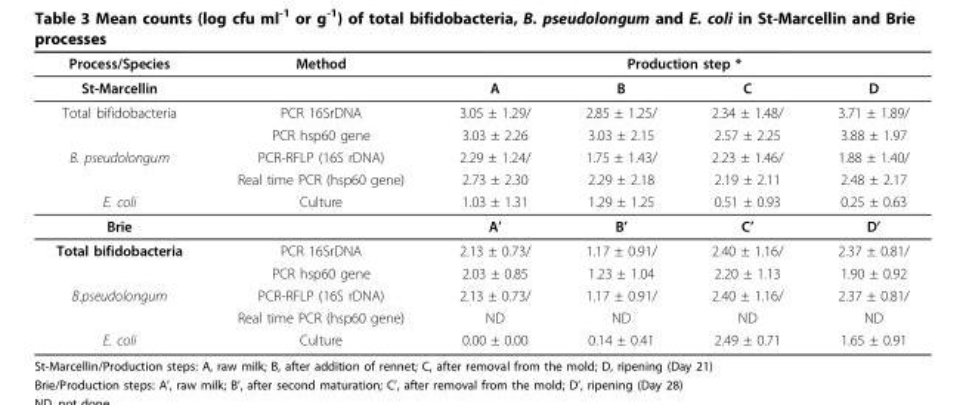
<table><thead><tr><td rowspan="2">Process/Species St-Marcellin</td><td rowspan="2">Method</td><td colspan="4">Production step *</td></tr><tr><td>A</td><td>B</td><td>C</td><td>D</td></tr></thead><tbody><tr><td rowspan="2">Total bifidobacteria</td><td>PCR 16SrDNA</td><td>3.05 ± 1.29/</td><td>2.85 ± 1.25/</td><td>2.34 ± 1.48/</td><td>3.71 ± 1.89/</td></tr><tr><td>PCR hsp60 gene</td><td>3.03 ± 2.26</td><td>3.03 ± 2.15</td><td>2.57 ± 2.25</td><td>3.88 ± 1.97</td></tr><tr><td rowspan="2">B. pseudolongum</td><td>PCR-RFLP (16S rDNA)</td><td>2.29 ± 1.24/</td><td>1.75 ± 1.43/</td><td>2.23 ± 1.46/</td><td>1.88 ± 1.40/</td></tr><tr><td>Real time PCR (hsp60 gene)</td><td>2.73 ± 2.30</td><td>2.29 ± 2.18</td><td>2.19 ± 2.11</td><td>2.48 ± 2.17</td></tr><tr><td>E. coli</td><td>Culture</td><td>1.03 ± 1.31</td><td>1.29 ± 1.25</td><td>0.51 ± 0.93</td><td>0.25 ± 0.63</td></tr><tr><td>Brie</td><td></td><td>A’</td><td>B’</td><td>C’</td><td>D’</td></tr><tr><td rowspan="2">Total bifidobacteria</td><td>PCR 16SrDNA</td><td>2.13 ± 0.73/</td><td>1.17 ± 0.91/</td><td>2.40 ± 1.16/</td><td>2.37 ± 0.81/</td></tr><tr><td>PCR hsp60 gene</td><td>2.03 ± 0.85</td><td>1.23 ± 1.04</td><td>2.20 ± 1.13</td><td>1.90 ± 0.92</td></tr><tr><td rowspan="2">B.pseudolongum</td><td>PCR-RFLP (16S rDNA)</td><td>2.13 ± 0.73/</td><td>1.17 ± 0.91/</td><td>2.40 ± 1.16/</td><td>2.37 ± 0.81/</td></tr><tr><td>Real time PCR (hsp60 gene)</td><td>ND</td><td>ND</td><td>ND</td><td>ND</td></tr><tr><td>E. coli</td><td>Culture</td><td>0.00 ± 0.00</td><td>0.14 ± 0.41</td><td>2.49 ± 0.71</td><td>1.65 ± 0.91</td></tr></tbody></table>